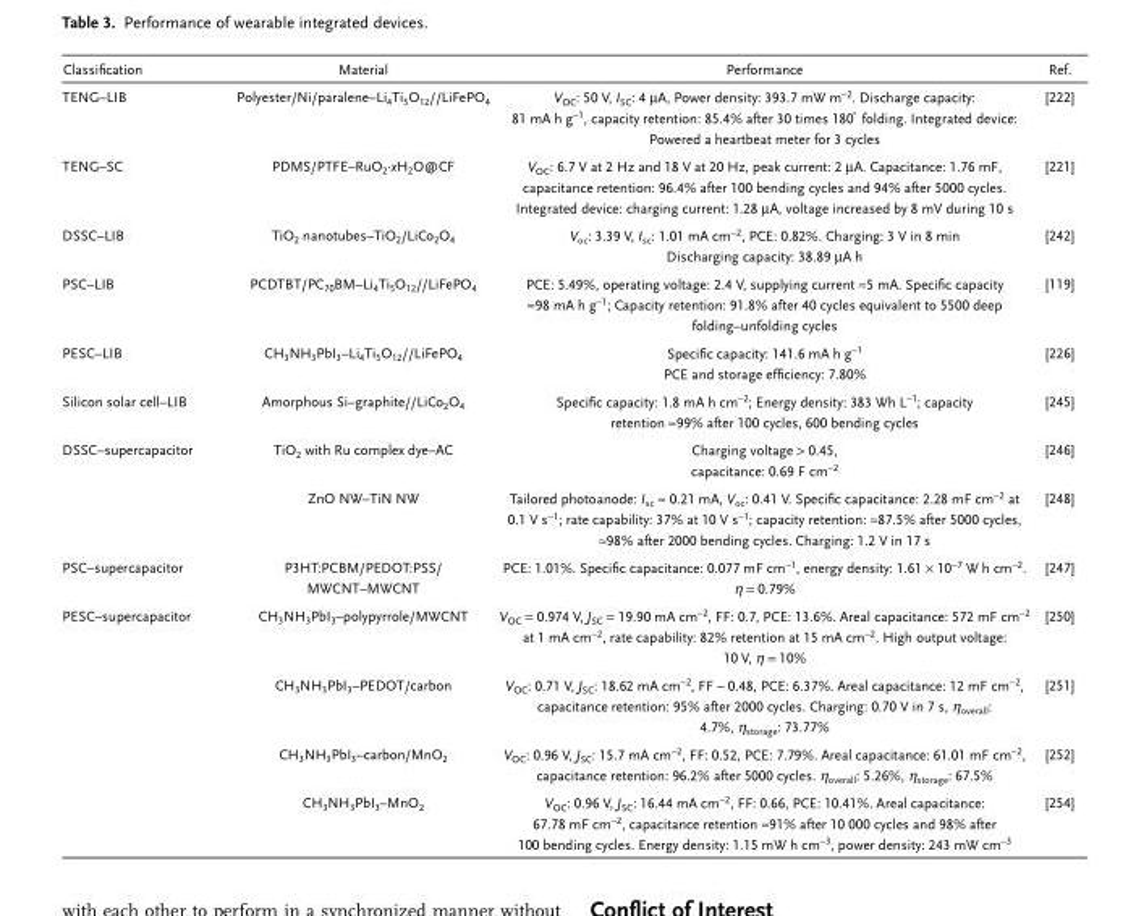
<table><thead><tr><td>Classification</td><td>Material</td><td>Performance</td><td>Ref.</td></tr></thead><tbody><tr><td>TENG–LIB</td><td>Polyester/Ni/paralene–Li<sub>4</sub>Ti<sub>5</sub>O<sub>12</sub>//LiFePO<sub>4</sub></td><td>V<sub>OC</sub>: 50 V, I<sub>SC</sub>: 4 µA, Power density: 393.7 mW m<sup>−2</sup>. Discharge capacity: 81 mA h g<sup>−1</sup>, capacity retention: 85.4% after 30 times 180 ̊ folding. Integrated device: Powered a heartbeat meter for 3 cycles</td><td>[222]</td></tr><tr><td>TENG–SC</td><td>PDMS/PTFE–RuO<sub>2</sub>·xH<sub>2</sub>O@CF</td><td>V<sub>OC</sub>: 6.7 V at 2 Hz and 18 V at 20 Hz, peak current: 2 µA. Capacitance: 1.76 mF, capacitance retention: 96.4% after 100 bending cycles and 94% after 5000 cycles. Integrated device: charging current: 1.28 µA, voltage increased by 8 mV during 10 s</td><td>[221]</td></tr><tr><td>DSSC–LIB</td><td>TiO<sub>2</sub> nanotubes–TiO<sub>2</sub>/LiCo<sub>2</sub>O<sub>4</sub></td><td>V<sub>oc</sub>: 3.39 V, I<sub>sc</sub>: 1.01 mA cm<sup>−2</sup>, PCE: 0.82%. Charging: 3 V in 8 min Discharging capacity: 38.89 µA h</td><td>[242]</td></tr><tr><td>PSC–LIB</td><td>PCDTBT/PC<sub>70</sub>BM–Li<sub>4</sub>Ti<sub>5</sub>O<sub>12</sub>//LiFePO<sub>4</sub></td><td>PCE: 5.49%, operating voltage: 2.4 V, supplying current ≈5 mA. Specific capacity ≈98 mA h g<sup>−1</sup>; Capacity retention: 91.8% after 40 cycles equivalent to 5500 deep folding–unfolding cycles</td><td>[119]</td></tr><tr><td>PESC–LIB</td><td>CH<sub>3</sub>NH<sub>3</sub>PbI<sub>3</sub>–Li<sub>4</sub>Ti<sub>5</sub>O<sub>12</sub>//LiFePO<sub>4</sub></td><td>Specific capacity: 141.6 mA h g<sup>−1</sup> PCE and storage efficiency: 7.80%</td><td>[226]</td></tr><tr><td>Silicon solar cell–LIB</td><td>Amorphous Si–graphite//LiCo<sub>2</sub>O<sub>4</sub></td><td>Specific capacity: 1.8 mA h cm<sup>−2</sup>; Energy density: 383 Wh L<sup>−1</sup>; capacity retention ≈99% after 100 cycles, 600 bending cycles</td><td>[245]</td></tr><tr><td rowspan="2">DSSC–supercapacitor</td><td>TiO<sub>2</sub> with Ru complex dye–AC</td><td>Charging voltage &gt; 0.45, capacitance: 0.69 F cm<sup>−2</sup></td><td>[246]</td></tr><tr><td>ZnO NW–TiN NW</td><td>Tailored photoanode: I<sub>sc</sub> ≈ 0.21 mA, V<sub>oc</sub>: 0.41 V. Specific capacitance: 2.28 mF cm<sup>−2</sup> at 0.1 V s<sup>−1</sup>; rate capability: 37% at 10 V s<sup>−1</sup>; capacity retention: ≈87.5% after 5000 cycles, ≈98% after 2000 bending cycles. Charging: 1.2 V in 17 s</td><td>[248]</td></tr><tr><td>PSC–supercapacitor</td><td>P3HT:PCBM/PEDOT:PSS/ MWCNT–MWCNT</td><td>PCE: 1.01%. Specific capacitance: 0.077 mF cm<sup>−1</sup>, energy density: 1.61 × 10<sup>−7</sup> W h cm<sup>−2</sup>. η = 0.79%</td><td>[247]</td></tr><tr><td rowspan="4">PESC–supercapacitor</td><td>CH<sub>3</sub>NH<sub>3</sub>PbI<sub>3</sub>–polypyrrole/MWCNT</td><td>V<sub>OC</sub> = 0.974 V, J<sub>SC</sub> = 19.90 mA cm<sup>−2</sup>, FF: 0.7, PCE: 13.6%. Areal capacitance: 572 mF cm<sup>−2</sup> at 1 mA cm<sup>−2</sup>, rate capability: 82% retention at 15 mA cm<sup>−2</sup>. High output voltage: 10 V, η = 10%</td><td>[250]</td></tr><tr><td>CH<sub>3</sub>NH<sub>3</sub>PbI<sub>3</sub>–PEDOT/carbon</td><td>V<sub>OC</sub>: 0.71 V, J<sub>SC</sub>: 18.62 mA cm<sup>−2</sup>, FF – 0.48, PCE: 6.37%. Areal capacitance: 12 mF cm<sup>−2</sup>, capacitance retention: 95% after 2000 cycles. Charging: 0.70 V in 7 s, η<sub>overall</sub>: 4.7%, η<sub>storage</sub>: 73.77%</td><td>[251]</td></tr><tr><td>CH<sub>3</sub>NH<sub>3</sub>PbI<sub>3</sub>–carbon/MnO<sub>2</sub></td><td>V<sub>OC</sub>: 0.96 V, J<sub>SC</sub>: 15.7 mA cm<sup>−2</sup>, FF: 0.52, PCE: 7.79%. Areal capacitance: 61.01 mF cm<sup>−2</sup>, capacitance retention: 96.2% after 5000 cycles. η<sub>overall</sub>: 5.26%, η<sub>storage</sub>: 67.5%</td><td>[252]</td></tr><tr><td>CH<sub>3</sub>NH<sub>3</sub>PbI<sub>3</sub>–MnO<sub>2</sub></td><td>V<sub>OC</sub>: 0.96 V, J<sub>SC</sub>: 16.44 mA cm<sup>−2</sup>, FF: 0.66, PCE: 10.41%. Areal capacitance: 67.78 mF cm<sup>−2</sup>, capacitance retention ≈91% after 10 000 cycles and 98% after 100 bending cycles. Energy density: 1.15 mW h cm<sup>−3</sup>, power density: 243 mW cm<sup>−3</sup></td><td>[254]</td></tr></tbody></table>